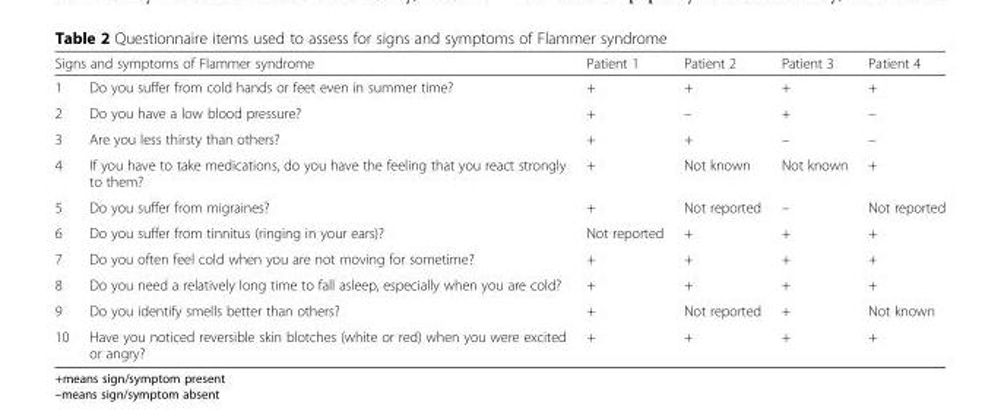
<table><thead><tr><td colspan="2">Signs and symptoms of Flammer syndrome</td><td rowspan="2">Patient 1 +</td><td rowspan="2">Patient 2 +</td><td rowspan="2">Patient 3 +</td><td rowspan="2">Patient 4 +</td></tr><tr><td>1</td><td>Do you suffer from cold hands or feet even in summer time?</td></tr></thead><tbody><tr><td>2</td><td>Do you have a low blood pressure?</td><td>+</td><td>–</td><td>+</td><td>–</td></tr><tr><td>3</td><td>Are you less thirsty than others?</td><td>+</td><td>+</td><td>–</td><td>–</td></tr><tr><td>4</td><td>If you have to take medications, do you have the feeling that you react strongly to them?</td><td>+</td><td>Not known</td><td>Not known</td><td>+</td></tr><tr><td>5</td><td>Do you suffer from migraines?</td><td>+</td><td>Not reported</td><td>–</td><td>Not reported</td></tr><tr><td>6</td><td>Do you suffer from tinnitus (ringing in your ears)?</td><td>Not reported</td><td>+</td><td>+</td><td>+</td></tr><tr><td>7</td><td>Do you often feel cold when you are not moving for sometime?</td><td>+</td><td>+</td><td>+</td><td>+</td></tr><tr><td>8</td><td>Do you need a relatively long time to fall asleep, especially when you are cold?</td><td>+</td><td>+</td><td>+</td><td>+</td></tr><tr><td>9</td><td>Do you identify smells better than others?</td><td>+</td><td>Not reported</td><td>+</td><td>Not known</td></tr><tr><td>10</td><td>Have you noticed reversible skin blotches (white or red) when you were excited or angry?</td><td>+</td><td>+</td><td>+</td><td>+</td></tr></tbody></table>